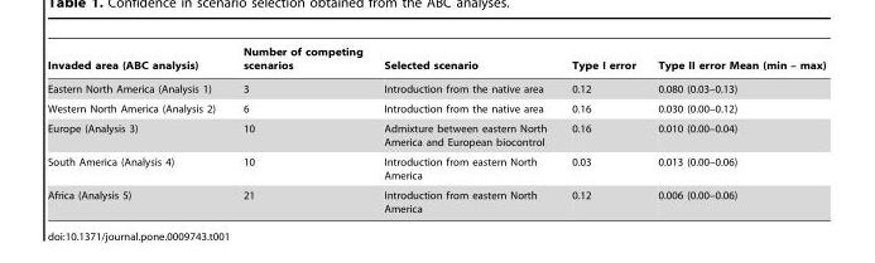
<table><thead><tr><td>Invaded area (ABC analysis)</td><td>Number of competing scenarios</td><td>Selected scenario</td><td>Type I error</td><td>Type II error Mean (min – max)</td></tr></thead><tbody><tr><td>Eastern North America (Analysis 1)</td><td>3</td><td>Introduction from the native area</td><td>0.12</td><td>0.080 (0.03–0.13)</td></tr><tr><td>Western North America (Analysis 2)</td><td>6</td><td>Introduction from the native area</td><td>0.16</td><td>0.030 (0.00–0.12)</td></tr><tr><td>Europe (Analysis 3)</td><td>10</td><td>Admixture between eastern North America and European biocontrol</td><td>0.16</td><td>0.010 (0.00–0.04)</td></tr><tr><td>South America (Analysis 4)</td><td>10</td><td>Introduction from eastern North America</td><td>0.03</td><td>0.013 (0.00–0.06)</td></tr><tr><td>Africa (Analysis 5)</td><td>21</td><td>Introduction from eastern North America</td><td>0.12</td><td>0.006 (0.00–0.06)</td></tr></tbody></table>